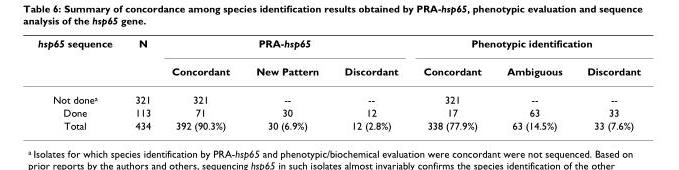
<table><thead><tr><td rowspan="2">hsp65 sequence</td><td rowspan="2">N</td><td colspan="3">PRA-hsp65</td><td colspan="3">Phenotypic identification</td></tr><tr><td>Concordant</td><td>New Pattern</td><td>Discordant</td><td>Concordant</td><td>Ambiguous</td><td>Discordant</td></tr></thead><tbody><tr><td>Not done<sup>a</sup></td><td>321</td><td>321</td><td>--</td><td>--</td><td>321</td><td>--</td><td>--</td></tr><tr><td>Done</td><td>113</td><td>71</td><td>30</td><td>12</td><td>17</td><td>63</td><td>33</td></tr><tr><td>Total</td><td>434</td><td>392 (90.3%)</td><td>30 (6.9%)</td><td>12 (2.8%)</td><td>338 (77.9%)</td><td>63 (14.5%)</td><td>33 (7.6%)</td></tr></tbody></table>